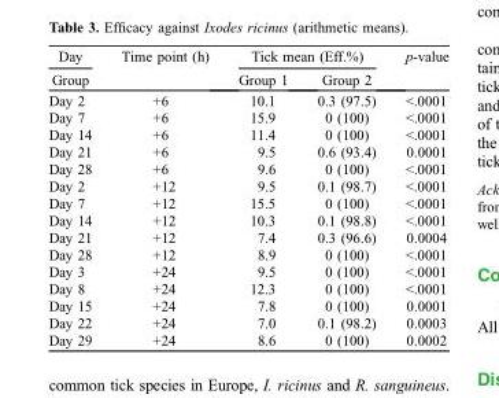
<table><thead><tr><td rowspan="2">Day Group</td><td rowspan="2">Time point (h)</td><td colspan="2">Tick mean (Eff.%)</td><td rowspan="2">p-value</td></tr><tr><td>Group 1</td><td>Group 2</td></tr></thead><tbody><tr><td>Day 2</td><td>+6</td><td>10.1</td><td>0.3 (97.5)</td><td>&lt;.0001</td></tr><tr><td>Day 7</td><td>+6</td><td>15.9</td><td>0 (100)</td><td>&lt;.0001</td></tr><tr><td>Day 14</td><td>+6</td><td>11.4</td><td>0 (100)</td><td>&lt;.0001</td></tr><tr><td>Day 21</td><td>+6</td><td>9.5</td><td>0.6 (93.4)</td><td>0.0001</td></tr><tr><td>Day 28</td><td>+6</td><td>9.6</td><td>0 (100)</td><td>&lt;.0001</td></tr><tr><td>Day 2</td><td>+12</td><td>9.5</td><td>0.1 (98.7)</td><td>&lt;.0001</td></tr><tr><td>Day 7</td><td>+12</td><td>15.5</td><td>0 (100)</td><td>&lt;.0001</td></tr><tr><td>Day 14</td><td>+12</td><td>10.3</td><td>0.1 (98.8)</td><td>&lt;.0001</td></tr><tr><td>Day 21</td><td>+12</td><td>7.4</td><td>0.3 (96.6)</td><td>0.0004</td></tr><tr><td>Day 28</td><td>+12</td><td>8.9</td><td>0 (100)</td><td>&lt;.0001</td></tr><tr><td>Day 3</td><td>+24</td><td>9.5</td><td>0 (100)</td><td>&lt;.0001</td></tr><tr><td>Day 8</td><td>+24</td><td>12.3</td><td>0 (100)</td><td>&lt;.0001</td></tr><tr><td>Day 15</td><td>+24</td><td>7.8</td><td>0 (100)</td><td>0.0001</td></tr><tr><td>Day 22</td><td>+24</td><td>7.0</td><td>0.1 (98.2)</td><td>0.0003</td></tr><tr><td>Day 29</td><td>+24</td><td>8.6</td><td>0 (100)</td><td>0.0002</td></tr></tbody></table>